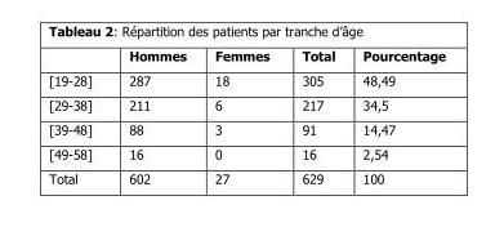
<table><thead><tr><td></td><td>Hommes</td><td>Femmes</td><td>Total</td><td>Pourcentage</td></tr></thead><tbody><tr><td>[19-28]</td><td>287</td><td>18</td><td>305</td><td>48,49</td></tr><tr><td>[29-38]</td><td>211</td><td>6</td><td>217</td><td>34,5</td></tr><tr><td>[39-48]</td><td>88</td><td>3</td><td>91</td><td>14,47</td></tr><tr><td>[49-58]</td><td>16</td><td>0</td><td>16</td><td>2,54</td></tr><tr><td>Total</td><td>602</td><td>27</td><td>629</td><td>100</td></tr></tbody></table>